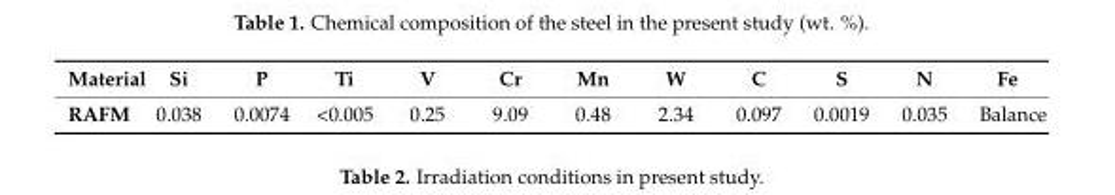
<table><thead><tr><td>Material</td><td>Si</td><td>P</td><td>Ti</td><td>V</td><td>Cr</td><td>Mn</td><td>W</td><td>C</td><td>S</td><td>N</td><td>Fe</td></tr></thead><tbody><tr><td>RAFM</td><td>0.038</td><td>0.0074</td><td>&lt;0.005</td><td>0.25</td><td>9.09</td><td>0.48</td><td>2.34</td><td>0.097</td><td>0.0019</td><td>0.035</td><td>Balance</td></tr></tbody></table>